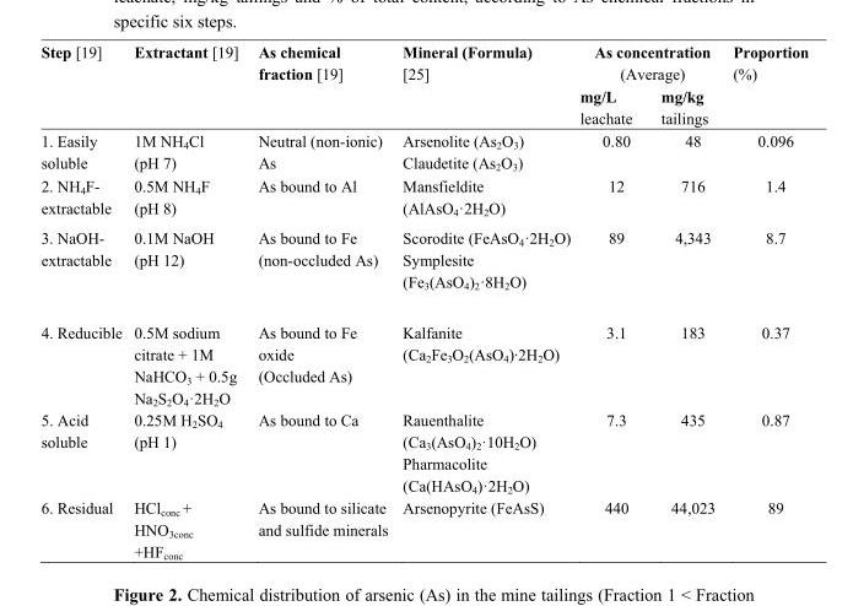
<table><thead><tr><td rowspan="2">Step [19]</td><td rowspan="2">Extractant [19]</td><td rowspan="2">As chemical fraction [19]</td><td rowspan="2">Mineral (Formula) [25]</td><td colspan="2">As concentration (Average)</td><td rowspan="2">Proportion (%)</td></tr><tr><td>mg/L leachate</td><td>mg/kg tailings</td></tr></thead><tbody><tr><td>1. Easily soluble</td><td>1M NH<sub>4</sub>Cl (pH 7)</td><td>Neutral (non-ionic) As</td><td>Arsenolite (As<sub>2</sub>O<sub>3</sub>) Claudetite (As<sub>2</sub>O<sub>3</sub>)</td><td>0.80</td><td>48</td><td>0.096</td></tr><tr><td>2. NH<sub>4</sub>F- extractable</td><td>0.5M NH<sub>4</sub>F (pH 8)</td><td>As bound to Al</td><td>Mansfieldite (AlAsO<sub>4</sub>·2H<sub>2</sub>O)</td><td>12</td><td>716</td><td>1.4</td></tr><tr><td>3. NaOH- extractable</td><td>0.1M NaOH (pH 12)</td><td>As bound to Fe (non-occluded As)</td><td>Scorodite (FeAsO4·2H<sub>2</sub>O) Symplesite (Fe<sub>3</sub>(AsO<sub>4</sub>)<sub>2</sub>·8H<sub>2</sub>O)</td><td>89</td><td>4,343</td><td>8.7</td></tr><tr><td>4. Reducible</td><td>0.5M sodium citrate + 1M NaHCO<sub>3</sub> + 0.5g Na<sub>2</sub>S<sub>2</sub>O<sub>4</sub>·2H<sub>2</sub>O</td><td>As bound to Fe oxide (Occluded As)</td><td>Kalfanite (Ca<sub>2</sub>Fe<sub>3</sub>O<sub>2</sub>(AsO<sub>4</sub>)·2H<sub>2</sub>O)</td><td>3.1</td><td>183</td><td>0.37</td></tr><tr><td>5. Acid soluble</td><td>0.25M H<sub>2</sub>SO<sub>4</sub> (pH 1)</td><td>As bound to Ca</td><td>Rauenthalite (Ca<sub>3</sub>(AsO<sub>4</sub>)2·10H<sub>2</sub>O) Pharmacolite (Ca(HAsO<sub>4</sub>)·2H<sub>2</sub>O)</td><td>7.3</td><td>435</td><td>0.87</td></tr><tr><td>6. Residual</td><td>HCl<sub>conc</sub> + HNO<sub>3conc</sub> +HF<sub>conc</sub></td><td>As bound to silicate and sulfide minerals</td><td>Arsenopyrite (FeAsS)</td><td>440</td><td>44,023</td><td>89</td></tr></tbody></table>